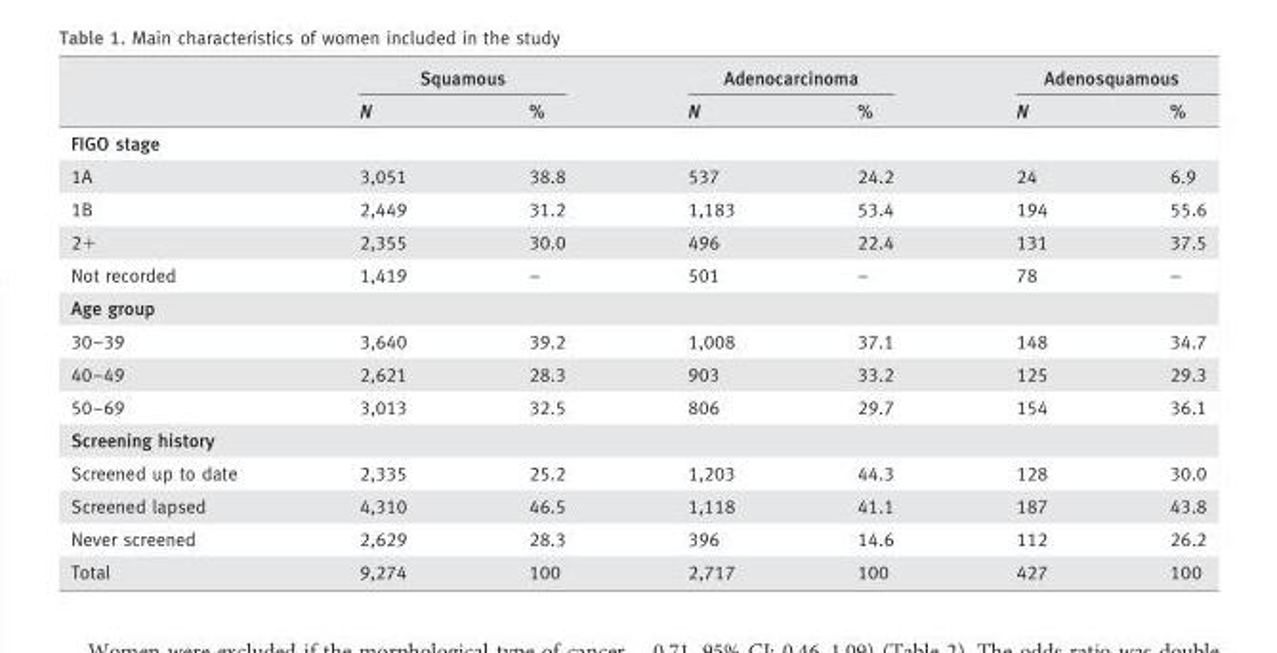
<table><thead><tr><td rowspan="2"></td><td colspan="2">Squamous</td><td colspan="2">Adenocarcinoma</td><td colspan="2">Adenosquamous</td></tr><tr><td>N</td><td>%</td><td>N</td><td>%</td><td>N</td><td>%</td></tr></thead><tbody><tr><td colspan="7">FIGO stage</td></tr><tr><td>1A</td><td>3,051</td><td>38.8</td><td>537</td><td>24.2</td><td>24</td><td>6.9</td></tr><tr><td>1B</td><td>2,449</td><td>31.2</td><td>1,183</td><td>53.4</td><td>194</td><td>55.6</td></tr><tr><td>2+</td><td>2,355</td><td>30.0</td><td>496</td><td>22.4</td><td>131</td><td>37.5</td></tr><tr><td>Not recorded</td><td>1,419</td><td>–</td><td>501</td><td>–</td><td>78</td><td>–</td></tr><tr><td colspan="7">Age group</td></tr><tr><td>30–39</td><td>3,640</td><td>39.2</td><td>1,008</td><td>37.1</td><td>148</td><td>34.7</td></tr><tr><td>40–49</td><td>2,621</td><td>28.3</td><td>903</td><td>33.2</td><td>125</td><td>29.3</td></tr><tr><td>50–69</td><td>3,013</td><td>32.5</td><td>806</td><td>29.7</td><td>154</td><td>36.1</td></tr><tr><td colspan="7">Screening history</td></tr><tr><td>Screened up to date</td><td>2,335</td><td>25.2</td><td>1,203</td><td>44.3</td><td>128</td><td>30.0</td></tr><tr><td>Screened lapsed</td><td>4,310</td><td>46.5</td><td>1,118</td><td>41.1</td><td>187</td><td>43.8</td></tr><tr><td>Never screened</td><td>2,629</td><td>28.3</td><td>396</td><td>14.6</td><td>112</td><td>26.2</td></tr><tr><td>Total</td><td>9,274</td><td>100</td><td>2,717</td><td>100</td><td>427</td><td>100</td></tr></tbody></table>